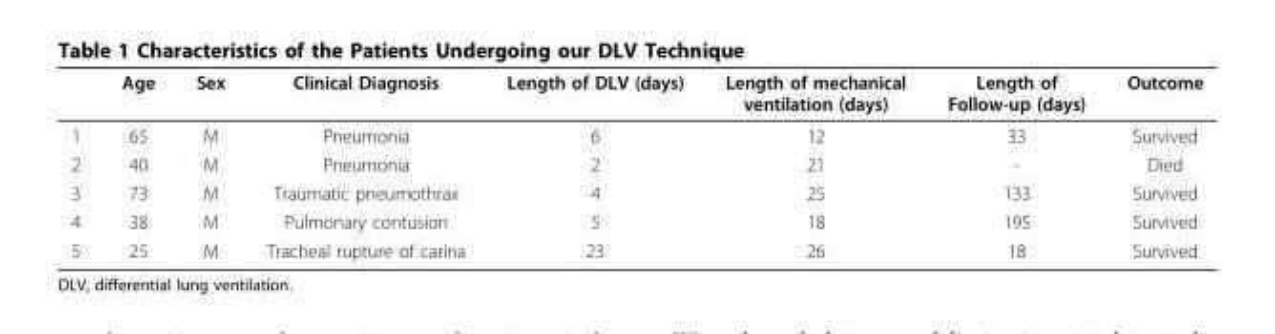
<table><thead><tr><td></td><td>Age</td><td>Sex</td><td>Clinical Diagnosis</td><td>Length of DLV (days)</td><td>Length of mechanical ventilation (days)</td><td>Length of Follow-up (days)</td><td>Outcome</td></tr></thead><tbody><tr><td>1</td><td>65</td><td>M</td><td>Pneumonia</td><td>6</td><td>12</td><td>33</td><td>Survived</td></tr><tr><td>2</td><td>40</td><td>M</td><td>Pneumonia</td><td>2</td><td>21</td><td>-</td><td>Died</td></tr><tr><td>3</td><td>73</td><td>M</td><td>Traumatic pneumothrax</td><td>4</td><td>25</td><td>133</td><td>Survived</td></tr><tr><td>4</td><td>38</td><td>M</td><td>Pulmonary contusion</td><td>5</td><td>18</td><td>195</td><td>Survived</td></tr><tr><td>5</td><td>25</td><td>M</td><td>Tracheal rupture of carina</td><td>23</td><td>26</td><td>18</td><td>Survived</td></tr></tbody></table>